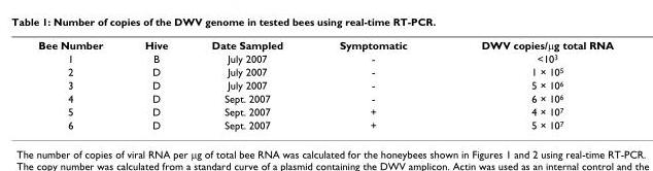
<table><tbody><tr><td>Bee Number</td><td>Hive</td><td>Date Sampled</td><td>Symptomatic</td><td>DWV copies/μg total RNA</td></tr><tr><td>1</td><td>B</td><td>July 2007</td><td>-</td><td>&lt;10<sup>3</sup></td></tr><tr><td>2</td><td>D</td><td>July 2007</td><td>-</td><td>1 × 10<sup>5</sup></td></tr><tr><td>3</td><td>D</td><td>July 2007</td><td>-</td><td>5 × 10<sup>6</sup></td></tr><tr><td>4</td><td>D</td><td>Sept. 2007</td><td>-</td><td>6 × 10<sup>6</sup></td></tr><tr><td>5</td><td>D</td><td>Sept. 2007</td><td>+</td><td>4 × 10<sup>7</sup></td></tr><tr><td>6</td><td>D</td><td>Sept. 2007</td><td>+</td><td>5 × 10<sup>7</sup></td></tr></tbody></table>